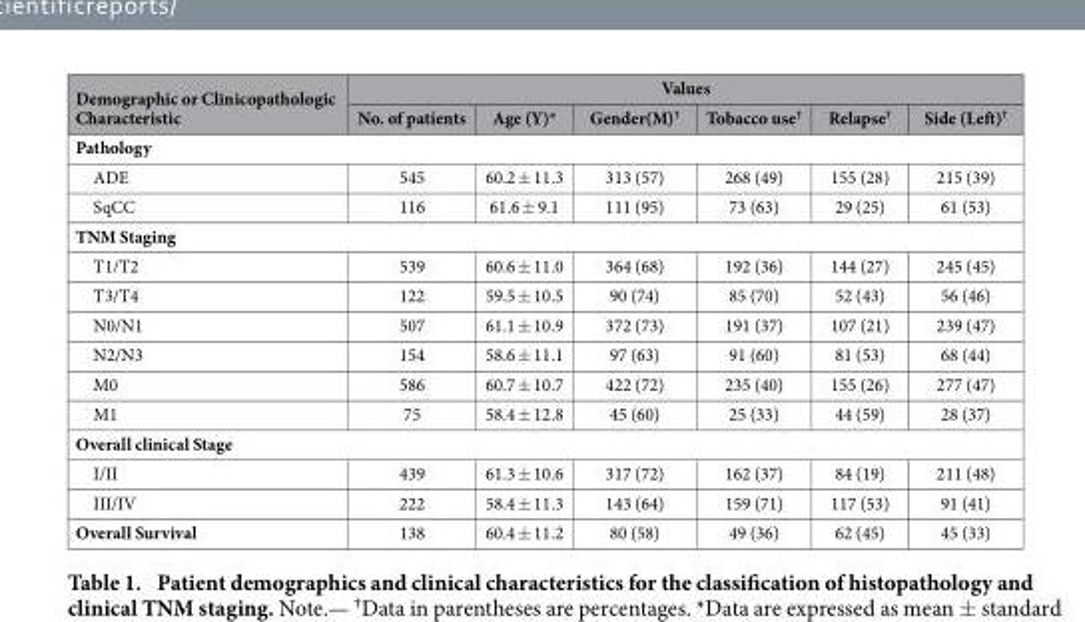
<table><thead><tr><td rowspan="2">Demographic or Clinicopathologic Characteristic</td><td colspan="6">Values</td></tr><tr><td>No. of patients</td><td>Age (Y)*</td><td>Gender(M)<sup>†</sup></td><td>Tobacco use<sup>†</sup></td><td>Relapse<sup>†</sup></td><td>Side (Left)<sup>†</sup></td></tr></thead><tbody><tr><td colspan="7">Pathology</td></tr><tr><td>ADE</td><td>545</td><td>60.2 ± 11.3</td><td>313 (57)</td><td>268 (49)</td><td>155 (28)</td><td>215 (39)</td></tr><tr><td>SqCC</td><td>116</td><td>61.6 ± 9.1</td><td>111 (95)</td><td>73 (63)</td><td>29 (25)</td><td>61 (53)</td></tr><tr><td colspan="7">TNM Staging</td></tr><tr><td>T1/T2</td><td>539</td><td>60.6 ± 11.0</td><td>364 (68)</td><td>192 (36)</td><td>144 (27)</td><td>245 (45)</td></tr><tr><td>T3/T4</td><td>122</td><td>59.5 ± 10.5</td><td>90 (74)</td><td>85 (70)</td><td>52 (43)</td><td>56 (46)</td></tr><tr><td>N0/N1</td><td>507</td><td>61.1 ± 10.9</td><td>372 (73)</td><td>191 (37)</td><td>107 (21)</td><td>239 (47)</td></tr><tr><td>N2/N3</td><td>154</td><td>58.6 ± 11.1</td><td>97 (63)</td><td>91 (60)</td><td>81 (53)</td><td>68 (44)</td></tr><tr><td>M0</td><td>586</td><td>60.7 ± 10.7</td><td>422 (72)</td><td>235 (40)</td><td>155 (26)</td><td>277 (47)</td></tr><tr><td>M1</td><td>75</td><td>58.4 ± 12.8</td><td>45 (60)</td><td>25 (33)</td><td>44 (59)</td><td>28 (37)</td></tr><tr><td colspan="7">Overall clinical Stage</td></tr><tr><td>I/II</td><td>439</td><td>61.3 ± 10.6</td><td>317 (72)</td><td>162 (37)</td><td>84 (19)</td><td>211 (48)</td></tr><tr><td>III/IV</td><td>222</td><td>58.4 ± 11.3</td><td>143 (64)</td><td>159 (71)</td><td>117 (53)</td><td>91 (41)</td></tr><tr><td>Overall Survival</td><td>138</td><td>60.4 ± 11.2</td><td>80 (58)</td><td>49 (36)</td><td>62 (45)</td><td>45 (33)</td></tr></tbody></table>